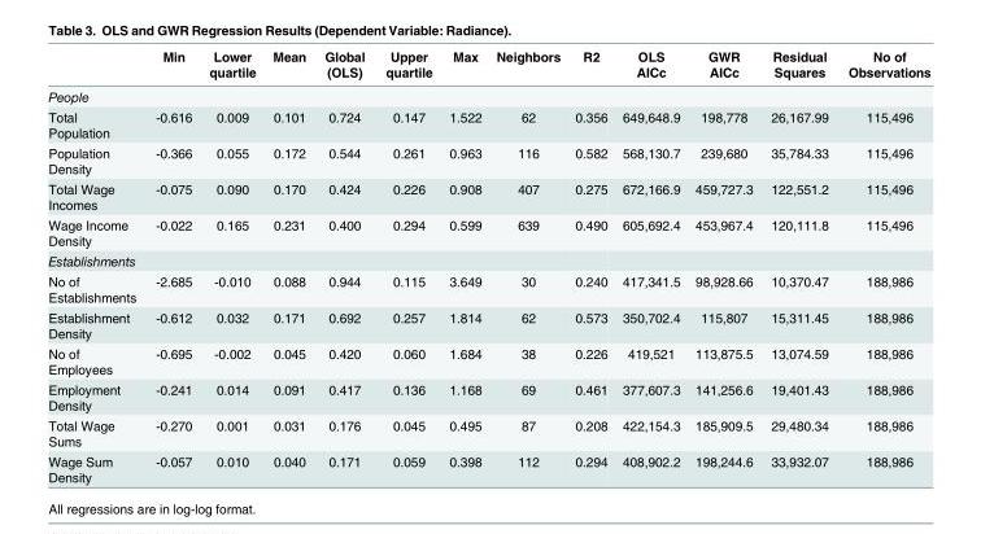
<table><thead><tr><td></td><td>Min</td><td>Lower quartile</td><td>Mean</td><td>Global (OLS)</td><td>Upper quartile</td><td>Max</td><td>Neighbors</td><td>R2</td><td>OLS AICc</td><td>GWR AICc</td><td>Residual Squares</td><td>No of Observations</td></tr></thead><tbody><tr><td colspan="13">People</td></tr><tr><td>Total Population</td><td>-0.616</td><td>0.009</td><td>0.101</td><td>0.724</td><td>0.147</td><td>1.522</td><td>62</td><td>0.356</td><td>649,648.9</td><td>198,778</td><td>26,167.99</td><td>115,496</td></tr><tr><td>Population Density</td><td>-0.366</td><td>0.055</td><td>0.172</td><td>0.544</td><td>0.261</td><td>0.963</td><td>116</td><td>0.582</td><td>568,130.7</td><td>239,680</td><td>35,784.33</td><td>115,496</td></tr><tr><td>Total Wage Incomes</td><td>-0.075</td><td>0.090</td><td>0.170</td><td>0.424</td><td>0.226</td><td>0.908</td><td>407</td><td>0.275</td><td>672,166.9</td><td>459,727.3</td><td>122,551.2</td><td>115,496</td></tr><tr><td>Wage Income Density</td><td>-0.022</td><td>0.165</td><td>0.231</td><td>0.400</td><td>0.294</td><td>0.599</td><td>639</td><td>0.490</td><td>605,692.4</td><td>453,967.4</td><td>120,111.8</td><td>115,496</td></tr><tr><td colspan="13">Establishments</td></tr><tr><td>No of Establishments</td><td>-2.685</td><td>-0.010</td><td>0.088</td><td>0.944</td><td>0.115</td><td>3.649</td><td>30</td><td>0.240</td><td>417,341.5</td><td>98,928.66</td><td>10,370.47</td><td>188,986</td></tr><tr><td>Establishment Density</td><td>-0.612</td><td>0.032</td><td>0.171</td><td>0.692</td><td>0.257</td><td>1.814</td><td>62</td><td>0.573</td><td>350,702.4</td><td>115,807</td><td>15,311.45</td><td>188,986</td></tr><tr><td>No of Employees</td><td>-0.695</td><td>-0.002</td><td>0.045</td><td>0.420</td><td>0.060</td><td>1.684</td><td>38</td><td>0.226</td><td>419,521</td><td>113,875.5</td><td>13,074.59</td><td>188,986</td></tr><tr><td>Employment Density</td><td>-0.241</td><td>0.014</td><td>0.091</td><td>0.417</td><td>0.136</td><td>1.168</td><td>69</td><td>0.461</td><td>377,607.3</td><td>141,256.6</td><td>19,401.43</td><td>188,986</td></tr><tr><td>Total Wage Sums</td><td>-0.270</td><td>0.001</td><td>0.031</td><td>0.176</td><td>0.045</td><td>0.495</td><td>87</td><td>0.208</td><td>422,154.3</td><td>185,909.5</td><td>29,480.34</td><td>188,986</td></tr><tr><td>Wage Sum Density</td><td>-0.057</td><td>0.010</td><td>0.040</td><td>0.171</td><td>0.059</td><td>0.398</td><td>112</td><td>0.294</td><td>408,902.2</td><td>198,244.6</td><td>33,932.07</td><td>188,986</td></tr></tbody></table>